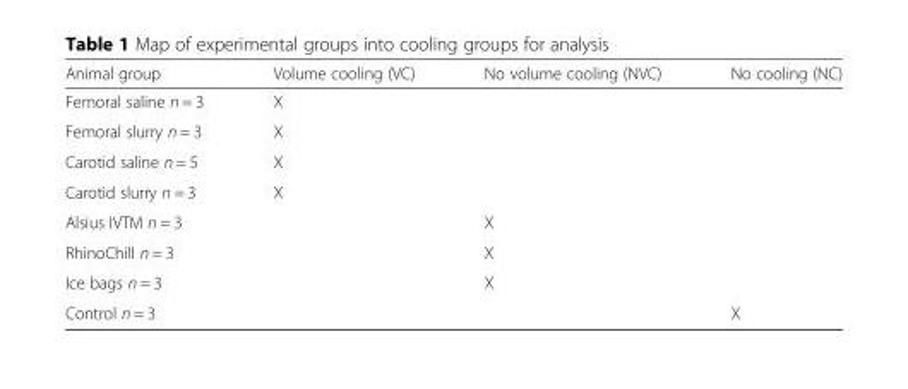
<table><thead><tr><td>Animal group</td><td>Volume cooling (VC)</td><td>No volume cooling (NVC)</td><td>No cooling (NC)</td></tr></thead><tbody><tr><td>Femoral saline n = 3</td><td>X</td><td></td><td></td></tr><tr><td>Femoral slurry n = 3</td><td>X</td><td></td><td></td></tr><tr><td>Carotid saline n = 5</td><td>X</td><td></td><td></td></tr><tr><td>Carotid slurry n = 3</td><td>X</td><td></td><td></td></tr><tr><td>Alsius IVTM n = 3</td><td></td><td>X</td><td></td></tr><tr><td>RhinoChill n = 3</td><td></td><td>X</td><td></td></tr><tr><td>Ice bags n = 3</td><td></td><td>X</td><td></td></tr><tr><td>Control n = 3</td><td></td><td></td><td>X</td></tr></tbody></table>